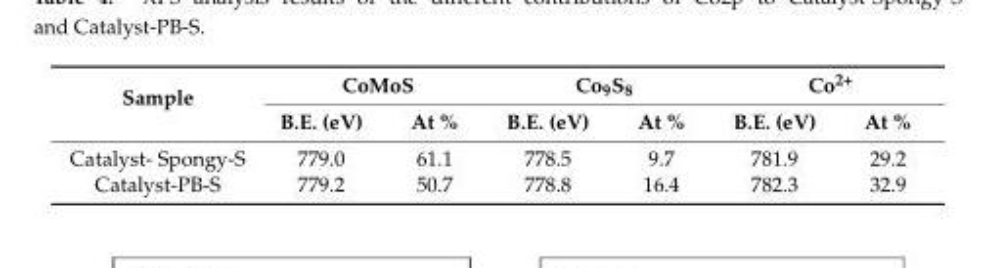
<table><thead><tr><td rowspan="2">Sample</td><td colspan="2">CoMoS</td><td colspan="2">Co9S8</td><td colspan="2">Co2+</td></tr><tr><td>B.E. (eV)</td><td>At %</td><td>B.E. (eV)</td><td>At %</td><td>B.E. (eV)</td><td>At %</td></tr></thead><tbody><tr><td>Catalyst- Spongy-S</td><td>779.0</td><td>61.1</td><td>778.5</td><td>9.7</td><td>781.9</td><td>29.2</td></tr><tr><td>Catalyst-PB-S</td><td>779.2</td><td>50.7</td><td>778.8</td><td>16.4</td><td>782.3</td><td>32.9</td></tr></tbody></table>